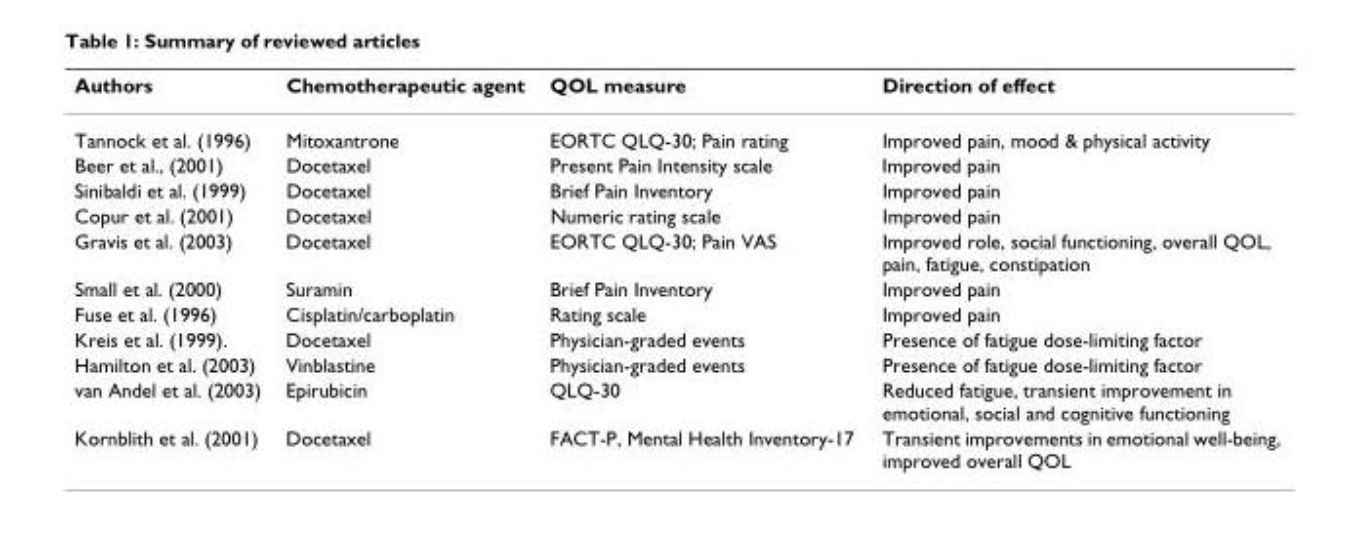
<table><thead><tr><td>Authors</td><td>Chemotherapeutic agent</td><td>QOL measure</td><td>Direction of effect</td></tr></thead><tbody><tr><td>Tannock et al. (1996)</td><td>Mitoxantrone</td><td>EORTC QLQ-30; Pain rating</td><td>Improved pain, mood &amp; physical activity</td></tr><tr><td>Beer et al., (2001)</td><td>Docetaxel</td><td>Present Pain Intensity scale</td><td>Improved pain</td></tr><tr><td>Sinibaldi et al. (1999)</td><td>Docetaxel</td><td>Brief Pain Inventory</td><td>Improved pain</td></tr><tr><td>Copur et al. (2001)</td><td>Docetaxel</td><td>Numeric rating scale</td><td>Improved pain</td></tr><tr><td>Gravis et al. (2003)</td><td>Docetaxel</td><td>EORTC QLQ-30; Pain VAS</td><td>Improved role, social functioning, overall QOL, pain, fatigue, constipation</td></tr><tr><td>Small et al. (2000)</td><td>Suramin</td><td>Brief Pain Inventory</td><td>Improved pain</td></tr><tr><td>Fuse et al. (1996)</td><td>Cisplatin/carboplatin</td><td>Rating scale</td><td>Improved pain</td></tr><tr><td>Kreis et al. (1999).</td><td>Docetaxel</td><td>Physician-graded events</td><td>Presence of fatigue dose-limiting factor</td></tr><tr><td>Hamilton et al. (2003)</td><td>Vinblastine</td><td>Physician-graded events</td><td>Presence of fatigue dose-limiting factor</td></tr><tr><td>van Andel et al. (2003)</td><td>Epirubicin</td><td>QLQ-30</td><td>Reduced fatigue, transient improvement in emotional, social and cognitive functioning</td></tr><tr><td>Kornblith et al. (2001)</td><td>Docetaxel</td><td>FACT-P, Mental Health Inventory-17</td><td>Transient improvements in emotional well-being, improved overall QOL</td></tr></tbody></table>